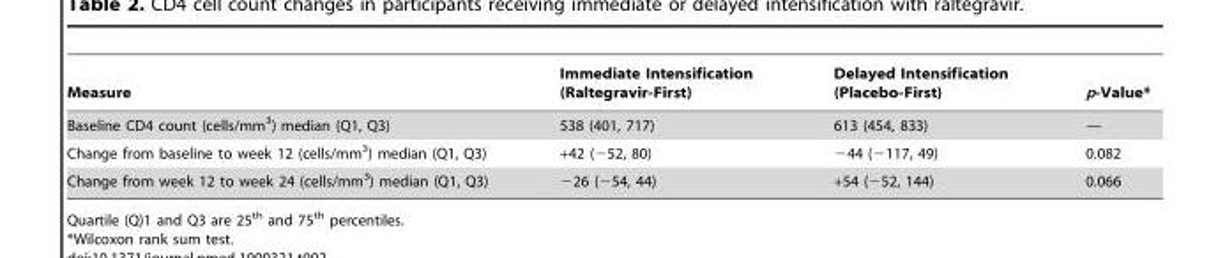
<table><thead><tr><td>Measure</td><td>Immediate Intensification (Raltegravir-First)</td><td>Delayed Intensification (Placebo-First)</td><td>p-Value*</td></tr></thead><tbody><tr><td>Baseline CD4 count (cells/mm<sup>3</sup>) median (Q1, Q3)</td><td>538 (401, 717)</td><td>613 (454, 833)</td><td>—</td></tr><tr><td>Change from baseline to week 12 (cells/mm<sup>3</sup>) median (Q1, Q3)</td><td>+42 (−52, 80)</td><td>−44 (−117, 49)</td><td>0.082</td></tr><tr><td>Change from week 12 to week 24 (cells/mm<sup>3</sup>) median (Q1, Q3)</td><td>−26 (−54, 44)</td><td>+54 (−52, 144)</td><td>0.066</td></tr></tbody></table>